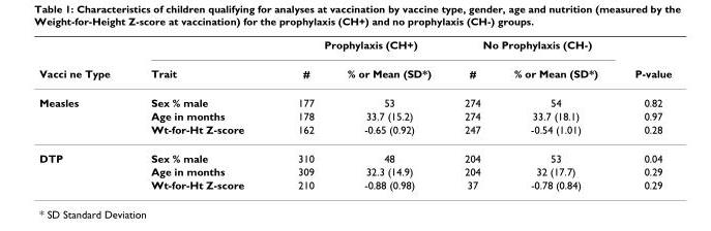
<table><thead><tr><td rowspan="2">Vacci ne Type</td><td rowspan="2">Trait</td><td colspan="2">Prophylaxis (CH+)</td><td colspan="2">No Prophylaxis (CH-)</td><td rowspan="2">P-value</td></tr><tr><td>#</td><td>% or Mean (SD*)</td><td>#</td><td>% or Mean (SD*)</td></tr></thead><tbody><tr><td rowspan="3">Measles</td><td>Sex % male</td><td>177</td><td>53</td><td>274</td><td>54</td><td>0.82</td></tr><tr><td>Age in months</td><td>178</td><td>33.7 (15.2)</td><td>274</td><td>33.7 (18.1)</td><td>0.97</td></tr><tr><td>Wt-for-Ht Z-score</td><td>162</td><td>-0.65 (0.92)</td><td>247</td><td>-0.54 (1.01)</td><td>0.28</td></tr><tr><td rowspan="3">DTP</td><td>Sex % male</td><td>310</td><td>48</td><td>204</td><td>53</td><td>0.04</td></tr><tr><td>Age in months</td><td>309</td><td>32.3 (14.9)</td><td>204</td><td>32 (17.7)</td><td>0.29</td></tr><tr><td>Wt-for-Ht Z-score</td><td>210</td><td>-0.88 (0.98)</td><td>37</td><td>-0.78 (0.84)</td><td>0.29</td></tr></tbody></table>